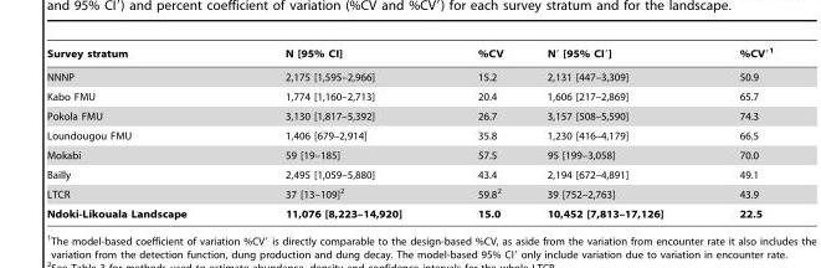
<table><thead><tr><td>Survey stratum</td><td>N [95% CI]</td><td>%CV</td><td>N′ [95% CI′]</td><td>%CV′<sup>1</sup></td></tr></thead><tbody><tr><td>NNNP</td><td>2,175 [1,595–2,966]</td><td>15.2</td><td>2,131 [447–3,309]</td><td>50.9</td></tr><tr><td>Kabo FMU</td><td>1,774 [1,160–2,713]</td><td>20.4</td><td>1,606 [217–2,869]</td><td>65.7</td></tr><tr><td>Pokola FMU</td><td>3,130 [1,817–5,392]</td><td>26.7</td><td>3,157 [508–5,590]</td><td>74.3</td></tr><tr><td>Loundougou FMU</td><td>1,406 [679–2,914]</td><td>35.8</td><td>1,230 [416–4,179]</td><td>66.5</td></tr><tr><td>Mokabi</td><td>59 [19–185]</td><td>57.5</td><td>95 [199–3,058]</td><td>70.0</td></tr><tr><td>Bailly</td><td>2,495 [1,059–5,880]</td><td>43.4</td><td>2,194 [672–4,891]</td><td>49.1</td></tr><tr><td>LTCR</td><td>37 [13–109]<sup>2</sup></td><td>59.8<sup>2</sup></td><td>39 [752–2,763]</td><td>43.9</td></tr><tr><td>Ndoki-Likouala Landscape</td><td>11,076 [8,223–14,920]</td><td>15.0</td><td>10,452 [7,813–17,126]</td><td>22.5</td></tr></tbody></table>